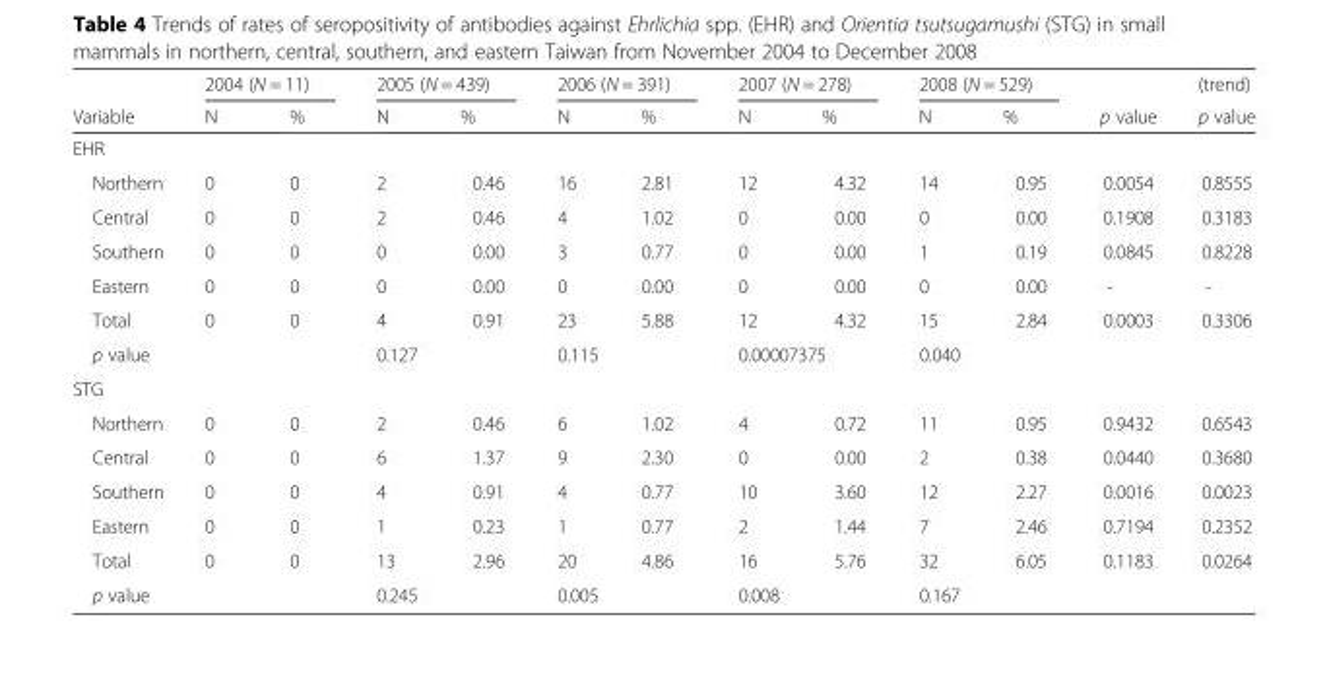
<table><thead><tr><td rowspan="2">Variable</td><td colspan="2">2004 (N = 11)</td><td colspan="2">2005 (N = 439)</td><td colspan="2">2006 (N = 391)</td><td colspan="2">2007 (N = 278)</td><td colspan="2">2008 (N = 529)</td><td rowspan="2">p value</td><td rowspan="2">(trend) p value</td></tr><tr><td>N</td><td>%</td><td>N</td><td>%</td><td>N</td><td>%</td><td>N</td><td>%</td><td>N</td><td>%</td></tr></thead><tbody><tr><td colspan="13">EHR</td></tr><tr><td>Northern</td><td>0</td><td>0</td><td>2</td><td>0.46</td><td>16</td><td>2.81</td><td>12</td><td>4.32</td><td>14</td><td>0.95</td><td>0.0054</td><td>0.8555</td></tr><tr><td>Central</td><td>0</td><td>0</td><td>2</td><td>0.46</td><td>4</td><td>1.02</td><td>0</td><td>0.00</td><td>0</td><td>0.00</td><td>0.1908</td><td>0.3183</td></tr><tr><td>Southern</td><td>0</td><td>0</td><td>0</td><td>0.00</td><td>3</td><td>0.77</td><td>0</td><td>0.00</td><td>1</td><td>0.19</td><td>0.0845</td><td>0.8228</td></tr><tr><td>Eastern</td><td>0</td><td>0</td><td>0</td><td>0.00</td><td>0</td><td>0.00</td><td>0</td><td>0.00</td><td>0</td><td>0.00</td><td>-</td><td>-</td></tr><tr><td>Total</td><td>0</td><td>0</td><td>4</td><td>0.91</td><td>23</td><td>5.88</td><td>12</td><td>4.32</td><td>15</td><td>2.84</td><td>0.0003</td><td>0.3306</td></tr><tr><td>p value</td><td colspan="2"></td><td colspan="2">0.127</td><td colspan="2">0.115</td><td colspan="2">0.00007375</td><td colspan="2">0.040</td><td></td><td></td></tr><tr><td colspan="13">STG</td></tr><tr><td>Northern</td><td>0</td><td>0</td><td>2</td><td>0.46</td><td>6</td><td>1.02</td><td>4</td><td>0.72</td><td>11</td><td>0.95</td><td>0.9432</td><td>0.6543</td></tr><tr><td>Central</td><td>0</td><td>0</td><td>6</td><td>1.37</td><td>9</td><td>2.30</td><td>0</td><td>0.00</td><td>2</td><td>0.38</td><td>0.0440</td><td>0.3680</td></tr><tr><td>Southern</td><td>0</td><td>0</td><td>4</td><td>0.91</td><td>4</td><td>0.77</td><td>10</td><td>3.60</td><td>12</td><td>2.27</td><td>0.0016</td><td>0.0023</td></tr><tr><td>Eastern</td><td>0</td><td>0</td><td>1</td><td>0.23</td><td>1</td><td>0.77</td><td>2</td><td>1.44</td><td>7</td><td>2.46</td><td>0.7194</td><td>0.2352</td></tr><tr><td>Total</td><td>0</td><td>0</td><td>13</td><td>2.96</td><td>20</td><td>4.86</td><td>16</td><td>5.76</td><td>32</td><td>6.05</td><td>0.1183</td><td>0.0264</td></tr><tr><td>p value</td><td colspan="2"></td><td colspan="2">0.245</td><td colspan="2">0.005</td><td colspan="2">0.008</td><td colspan="2">0.167</td><td></td><td></td></tr></tbody></table>